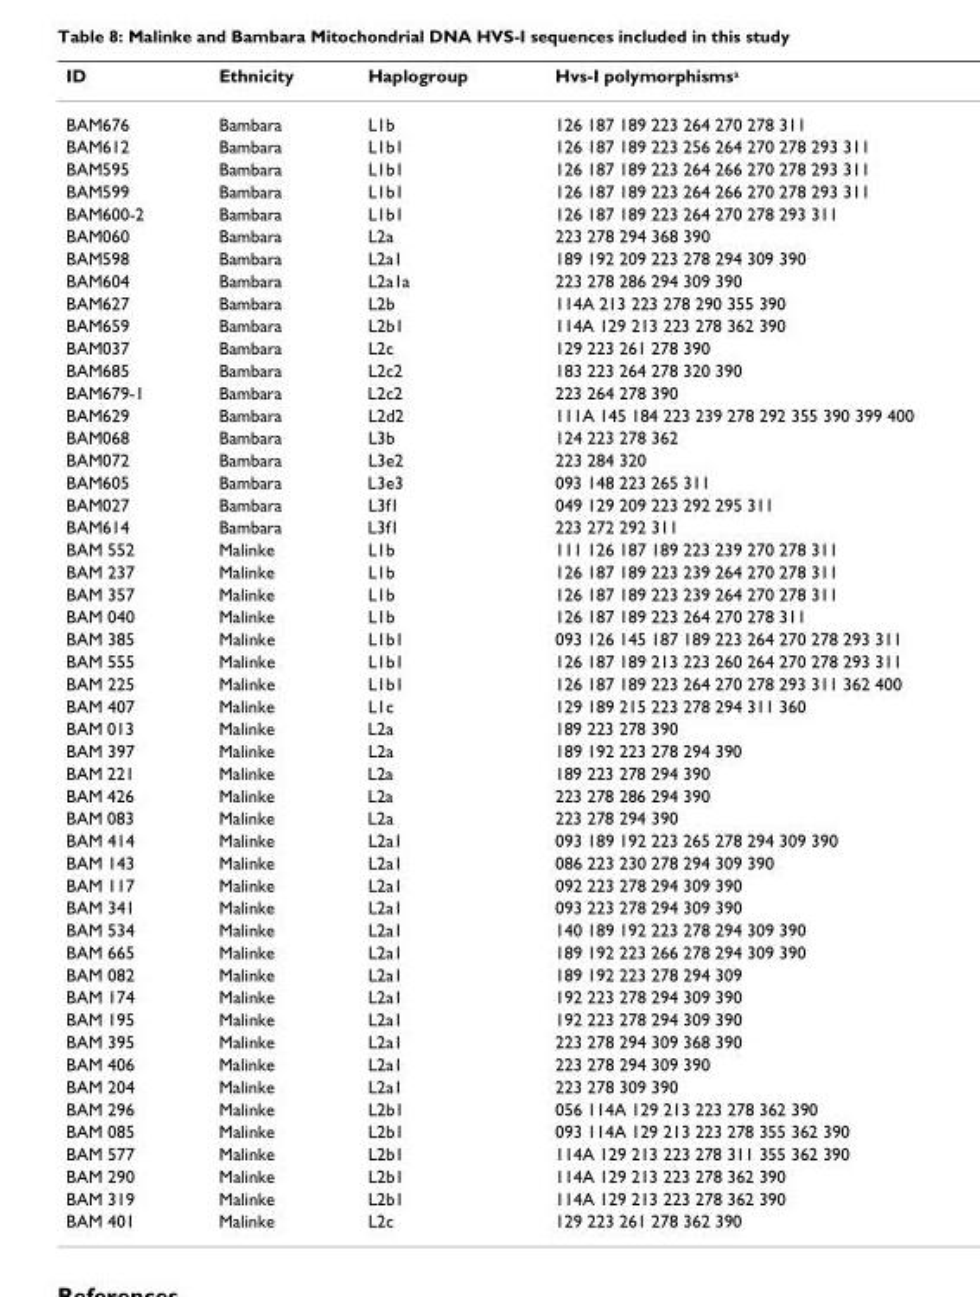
<table><thead><tr><td>ID</td><td>Ethnicity</td><td>Haplogroup</td><td>Hvs-I polymorphismsa</td></tr></thead><tbody><tr><td>BAM676</td><td>Bambara</td><td>L1b</td><td>126 187 189 223 264 270 278 311</td></tr><tr><td>BAM612</td><td>Bambara</td><td>L1b1</td><td>126 187 189 223 256 264 270 278 293 311</td></tr><tr><td>BAM595</td><td>Bambara</td><td>L1b1</td><td>126 187 189 223 264 266 270 278 293 311</td></tr><tr><td>BAM599</td><td>Bambara</td><td>L1b1</td><td>126 187 189 223 264 266 270 278 293 311</td></tr><tr><td>BAM600-2</td><td>Bambara</td><td>L1b1</td><td>126 187 189 223 264 270 278 293 311</td></tr><tr><td>BAM060</td><td>Bambara</td><td>L2a</td><td>223 278 294 368 390</td></tr><tr><td>BAM598</td><td>Bambara</td><td>L2a1</td><td>189 192 209 223 278 294 309 390</td></tr><tr><td>BAM604</td><td>Bambara</td><td>L2a1a</td><td>223 278 286 294 309 390</td></tr><tr><td>BAM627</td><td>Bambara</td><td>L2b</td><td>114A 213 223 278 290 355 390</td></tr><tr><td>BAM659</td><td>Bambara</td><td>L2b1</td><td>114A 129 213 223 278 362 390</td></tr><tr><td>BAM037</td><td>Bambara</td><td>L2c</td><td>129 223 261 278 390</td></tr><tr><td>BAM685</td><td>Bambara</td><td>L2c2</td><td>183 223 264 278 320 390</td></tr><tr><td>BAM679-1</td><td>Bambara</td><td>L2c2</td><td>223 264 278 390</td></tr><tr><td>BAM629</td><td>Bambara</td><td>L2d2</td><td>111A 145 184 223 239 278 292 355 390 399 400</td></tr><tr><td>BAM068</td><td>Bambara</td><td>L3b</td><td>124 223 278 362</td></tr><tr><td>BAM072</td><td>Bambara</td><td>L3e2</td><td>223 284 320</td></tr><tr><td>BAM605</td><td>Bambara</td><td>L3e3</td><td>093 148 223 265 311</td></tr><tr><td>BAM027</td><td>Bambara</td><td>L3f1</td><td>049 129 209 223 292 295 311</td></tr><tr><td>BAM614</td><td>Bambara</td><td>L3f1</td><td>223 272 292 311</td></tr><tr><td>BAM 552</td><td>Malinke</td><td>L1b</td><td>111 126 187 189 223 239 270 278 311</td></tr><tr><td>BAM 237</td><td>Malinke</td><td>L1b</td><td>126 187 189 223 239 264 270 278 311</td></tr><tr><td>BAM 357</td><td>Malinke</td><td>L1b</td><td>126 187 189 223 239 264 270 278 311</td></tr><tr><td>BAM 040</td><td>Malinke</td><td>L1b</td><td>126 187 189 223 264 270 278 311</td></tr><tr><td>BAM 385</td><td>Malinke</td><td>L1b1</td><td>093 126 145 187 189 223 264 270 278 293 311</td></tr><tr><td>BAM 555</td><td>Malinke</td><td>L1b1</td><td>126 187 189 213 223 260 264 270 278 293 311</td></tr><tr><td>BAM 225</td><td>Malinke</td><td>L1b1</td><td>126 187 189 223 264 270 278 293 311 362 400</td></tr><tr><td>BAM 407</td><td>Malinke</td><td>L1c</td><td>129 189 215 223 278 294 311 360</td></tr><tr><td>BAM 013</td><td>Malinke</td><td>L2a</td><td>189 223 278 390</td></tr><tr><td>BAM 397</td><td>Malinke</td><td>L2a</td><td>189 192 223 278 294 390</td></tr><tr><td>BAM 221</td><td>Malinke</td><td>L2a</td><td>189 223 278 294 390</td></tr><tr><td>BAM 426</td><td>Malinke</td><td>L2a</td><td>223 278 286 294 390</td></tr><tr><td>BAM 083</td><td>Malinke</td><td>L2a</td><td>223 278 294 390</td></tr><tr><td>BAM 414</td><td>Malinke</td><td>L2a1</td><td>093 189 192 223 265 278 294 309 390</td></tr><tr><td>BAM 143</td><td>Malinke</td><td>L2a1</td><td>086 223 230 278 294 309 390</td></tr><tr><td>BAM 117</td><td>Malinke</td><td>L2a1</td><td>092 223 278 294 309 390</td></tr><tr><td>BAM 341</td><td>Malinke</td><td>L2a1</td><td>093 223 278 294 309 390</td></tr><tr><td>BAM 534</td><td>Malinke</td><td>L2a1</td><td>140 189 192 223 278 294 309 390</td></tr><tr><td>BAM 665</td><td>Malinke</td><td>L2a1</td><td>189 192 223 266 278 294 309 390</td></tr><tr><td>BAM 082</td><td>Malinke</td><td>L2a1</td><td>189 192 223 278 294 309</td></tr><tr><td>BAM 174</td><td>Malinke</td><td>L2a1</td><td>192 223 278 294 309 390</td></tr><tr><td>BAM 195</td><td>Malinke</td><td>L2a1</td><td>192 223 278 294 309 390</td></tr><tr><td>BAM 395</td><td>Malinke</td><td>L2a1</td><td>223 278 294 309 368 390</td></tr><tr><td>BAM 406</td><td>Malinke</td><td>L2a1</td><td>223 278 294 309 390</td></tr><tr><td>BAM 204</td><td>Malinke</td><td>L2a1</td><td>223 278 309 390</td></tr><tr><td>BAM 296</td><td>Malinke</td><td>L2b1</td><td>056 114A 129 213 223 278 362 390</td></tr><tr><td>BAM 085</td><td>Malinke</td><td>L2b1</td><td>093 114A 129 213 223 278 355 362 390</td></tr><tr><td>BAM 577</td><td>Malinke</td><td>L2b1</td><td>114A 129 213 223 278 311 355 362 390</td></tr><tr><td>BAM 290</td><td>Malinke</td><td>L2b1</td><td>114A 129 213 223 278 362 390</td></tr><tr><td>BAM 319</td><td>Malinke</td><td>L2b1</td><td>114A 129 213 223 278 362 390</td></tr><tr><td>BAM 401</td><td>Malinke</td><td>L2c</td><td>129 223 261 278 362 390</td></tr></tbody></table>